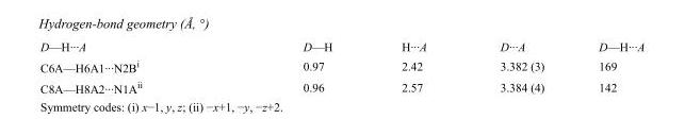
<table><tbody><tr><td>D—H···A</td><td>D—H</td><td>H···A</td><td>D···A</td><td>D—H···A</td></tr><tr><td>C6A—H6A1···N2B<sup>i</sup></td><td>0.97</td><td>2.42</td><td>3.382 (3)</td><td>169</td></tr><tr><td>C8A—H8A2···N1A<sup>ii</sup></td><td>0.96</td><td>2.57</td><td>3.384 (4)</td><td>142</td></tr></tbody></table>